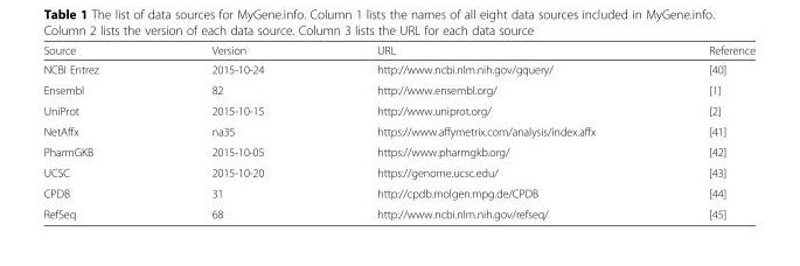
<table><thead><tr><td>Source</td><td>Version</td><td>URL</td><td>Reference</td></tr></thead><tbody><tr><td>NCBI Entrez</td><td>2015-10-24</td><td>http://www.ncbi.nlm.nih.gov/gquery/</td><td>[40]</td></tr><tr><td>Ensembl</td><td>82</td><td>http://www.ensembl.org/</td><td>[1]</td></tr><tr><td>UniProt</td><td>2015-10-15</td><td>http://www.uniprot.org/</td><td>[2]</td></tr><tr><td>NetAffx</td><td>na35</td><td>https://www.affymetrix.com/analysis/index.affx</td><td>[41]</td></tr><tr><td>PharmGKB</td><td>2015-10-05</td><td>https://www.pharmgkb.org/</td><td>[42]</td></tr><tr><td>UCSC</td><td>2015-10-20</td><td>https://genome.ucsc.edu/</td><td>[43]</td></tr><tr><td>CPDB</td><td>31</td><td>http://cpdb.molgen.mpg.de/CPDB</td><td>[44]</td></tr><tr><td>RefSeq</td><td>68</td><td>http://www.ncbi.nlm.nih.gov/refseq/</td><td>[45]</td></tr></tbody></table>